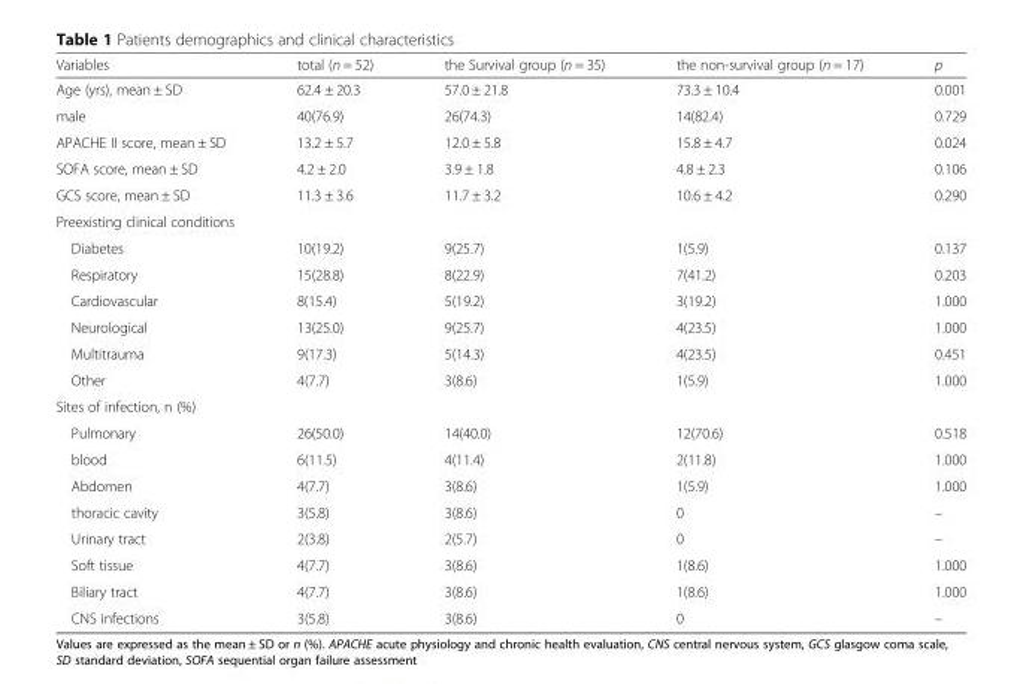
<table><thead><tr><td>Variables</td><td>total (n = 52)</td><td>the Survival group (n = 35)</td><td>the non-survival group (n = 17)</td><td>p</td></tr></thead><tbody><tr><td>Age (yrs), mean ± SD</td><td>62.4 ± 20.3</td><td>57.0 ± 21.8</td><td>73.3 ± 10.4</td><td>0.001</td></tr><tr><td>male</td><td>40(76.9)</td><td>26(74.3)</td><td>14(82.4)</td><td>0.729</td></tr><tr><td>APACHE II score, mean ± SD</td><td>13.2 ± 5.7</td><td>12.0 ± 5.8</td><td>15.8 ± 4.7</td><td>0.024</td></tr><tr><td>SOFA score, mean ± SD</td><td>4.2 ± 2.0</td><td>3.9 ± 1.8</td><td>4.8 ± 2.3</td><td>0.106</td></tr><tr><td>GCS score, mean ± SD</td><td>11.3 ± 3.6</td><td>11.7 ± 3.2</td><td>10.6 ± 4.2</td><td>0.290</td></tr><tr><td colspan="5">Preexisting clinical conditions</td></tr><tr><td>Diabetes</td><td>10(19.2)</td><td>9(25.7)</td><td>1(5.9)</td><td>0.137</td></tr><tr><td>Respiratory</td><td>15(28.8)</td><td>8(22.9)</td><td>7(41.2)</td><td>0.203</td></tr><tr><td>Cardiovascular</td><td>8(15.4)</td><td>5(19.2)</td><td>3(19.2)</td><td>1.000</td></tr><tr><td>Neurological</td><td>13(25.0)</td><td>9(25.7)</td><td>4(23.5)</td><td>1.000</td></tr><tr><td>Multitrauma</td><td>9(17.3)</td><td>5(14.3)</td><td>4(23.5)</td><td>0.451</td></tr><tr><td>Other</td><td>4(7.7)</td><td>3(8.6)</td><td>1(5.9)</td><td>1.000</td></tr><tr><td colspan="5">Sites of infection, n (%)</td></tr><tr><td>Pulmonary</td><td>26(50.0)</td><td>14(40.0)</td><td>12(70.6)</td><td>0.518</td></tr><tr><td>blood</td><td>6(11.5)</td><td>4(11.4)</td><td>2(11.8)</td><td>1.000</td></tr><tr><td>Abdomen</td><td>4(7.7)</td><td>3(8.6)</td><td>1(5.9)</td><td>1.000</td></tr><tr><td>thoracic cavity</td><td>3(5.8)</td><td>3(8.6)</td><td>0</td><td>–</td></tr><tr><td>Urinary tract</td><td>2(3.8)</td><td>2(5.7)</td><td>0</td><td>–</td></tr><tr><td>Soft tissue</td><td>4(7.7)</td><td>3(8.6)</td><td>1(8.6)</td><td>1.000</td></tr><tr><td>Biliary tract</td><td>4(7.7)</td><td>3(8.6)</td><td>1(8.6)</td><td>1.000</td></tr><tr><td>CNS infections</td><td>3(5.8)</td><td>3(8.6)</td><td>0</td><td>–</td></tr></tbody></table>